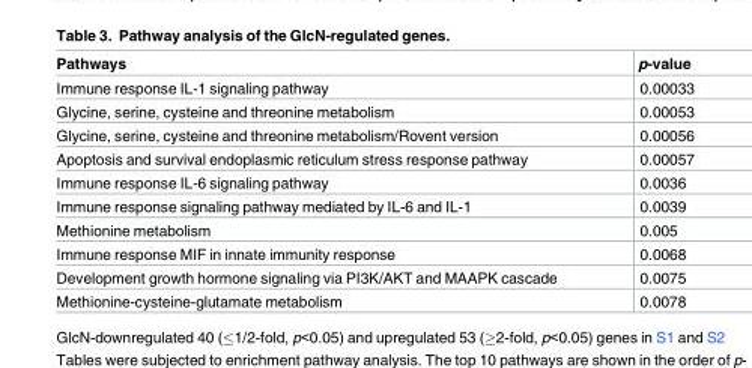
<table><thead><tr><td>Pathways</td><td>p-value</td></tr></thead><tbody><tr><td>Immune response IL-1 signaling pathway</td><td>0.00033</td></tr><tr><td>Glycine, serine, cysteine and threonine metabolism</td><td>0.00053</td></tr><tr><td>Glycine, serine, cysteine and threonine metabolism/Rovent version</td><td>0.00056</td></tr><tr><td>Apoptosis and survival endoplasmic reticulum stress response pathway</td><td>0.00057</td></tr><tr><td>Immune response IL-6 signaling pathway</td><td>0.0036</td></tr><tr><td>Immune response signaling pathway mediated by IL-6 and IL-1</td><td>0.0039</td></tr><tr><td>Methionine metabolism</td><td>0.005</td></tr><tr><td>Immune response MIF in innate immunity response</td><td>0.0068</td></tr><tr><td>Development growth hormone signaling via PI3K/AKT and MAAPK cascade</td><td>0.0075</td></tr><tr><td>Methionine-cysteine-glutamate metabolism</td><td>0.0078</td></tr></tbody></table>